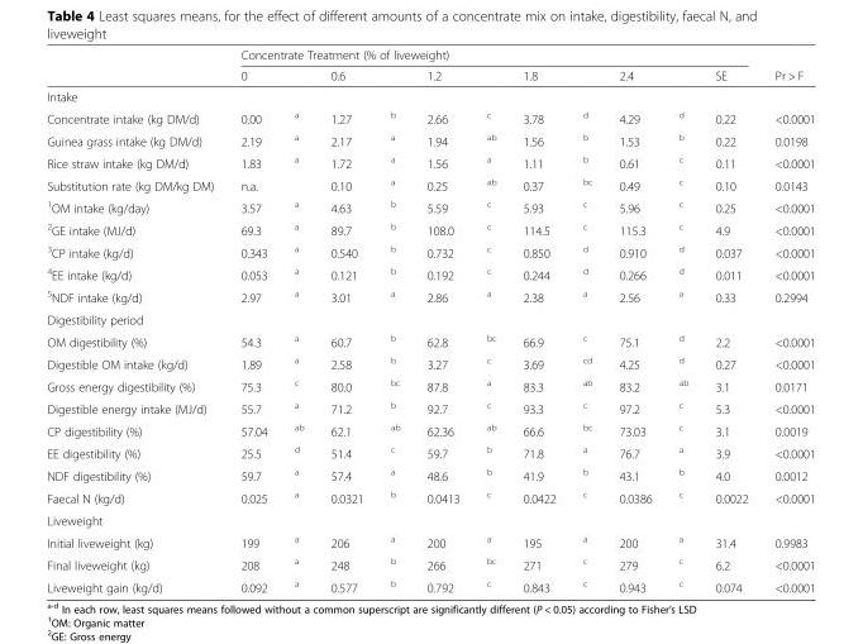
<table><thead><tr><td rowspan="2"></td><td colspan="11">Concentrate Treatment (% of liveweight)</td><td rowspan="2">Pr &gt; F</td></tr><tr><td>0</td><td></td><td>0.6</td><td></td><td>1.2</td><td></td><td>1.8</td><td></td><td>2.4</td><td></td><td>SE</td></tr></thead><tbody><tr><td colspan="13">Intake</td></tr><tr><td>Concentrate intake (kg DM/d)</td><td>0.00</td><td><sup>a</sup></td><td>1.27</td><td><sup>b</sup></td><td>2.66</td><td><sup>c</sup></td><td>3.78</td><td><sup>d</sup></td><td>4.29</td><td><sup>d</sup></td><td>0.22</td><td>&lt;0.0001</td></tr><tr><td>Guinea grass intake (kg DM/d)</td><td>2.19</td><td><sup>a</sup></td><td>2.17</td><td><sup>a</sup></td><td>1.94</td><td><sup>ab</sup></td><td>1.56</td><td><sup>b</sup></td><td>1.53</td><td><sup>b</sup></td><td>0.22</td><td>0.0198</td></tr><tr><td>Rice straw intake (kg DM/d)</td><td>1.83</td><td><sup>a</sup></td><td>1.72</td><td><sup>a</sup></td><td>1.56</td><td><sup>a</sup></td><td>1.11</td><td><sup>b</sup></td><td>0.61</td><td><sup>c</sup></td><td>0.11</td><td>&lt;0.0001</td></tr><tr><td>Substitution rate (kg DM/kg DM)</td><td>n.a.</td><td></td><td>0.10</td><td><sup>a</sup></td><td>0.25</td><td><sup>ab</sup></td><td>0.37</td><td><sup>bc</sup></td><td>0.49</td><td><sup>c</sup></td><td>0.10</td><td>0.0143</td></tr><tr><td><sup>1</sup>OM intake (kg/day)</td><td>3.57</td><td><sup>a</sup></td><td>4.63</td><td><sup>b</sup></td><td>5.59</td><td><sup>c</sup></td><td>5.93</td><td><sup>c</sup></td><td>5.96</td><td><sup>c</sup></td><td>0.25</td><td>&lt;0.0001</td></tr><tr><td><sup>2</sup>GE intake (MJ/d)</td><td>69.3</td><td><sup>a</sup></td><td>89.7</td><td><sup>b</sup></td><td>108.0</td><td><sup>c</sup></td><td>114.5</td><td><sup>c</sup></td><td>115.3</td><td><sup>c</sup></td><td>4.9</td><td>&lt;0.0001</td></tr><tr><td><sup>3</sup>CP intake (kg/d)</td><td>0.343</td><td><sup>a</sup></td><td>0.540</td><td><sup>b</sup></td><td>0.732</td><td><sup>c</sup></td><td>0.850</td><td><sup>d</sup></td><td>0.910</td><td><sup>d</sup></td><td>0.037</td><td>&lt;0.0001</td></tr><tr><td><sup>4</sup>EE intake (kg/d)</td><td>0.053</td><td><sup>a</sup></td><td>0.121</td><td><sup>b</sup></td><td>0.192</td><td><sup>c</sup></td><td>0.244</td><td><sup>d</sup></td><td>0.266</td><td><sup>d</sup></td><td>0.011</td><td>&lt;0.0001</td></tr><tr><td><sup>5</sup>NDF intake (kg/d)</td><td>2.97</td><td><sup>a</sup></td><td>3.01</td><td><sup>a</sup></td><td>2.86</td><td><sup>a</sup></td><td>2.38</td><td><sup>a</sup></td><td>2.56</td><td><sup>a</sup></td><td>0.33</td><td>0.2994</td></tr><tr><td colspan="13">Digestibility period</td></tr><tr><td>OM digestibility (%)</td><td>54.3</td><td><sup>a</sup></td><td>60.7</td><td><sup>b</sup></td><td>62.8</td><td><sup>bc</sup></td><td>66.9</td><td><sup>c</sup></td><td>75.1</td><td><sup>d</sup></td><td>2.2</td><td>&lt;0.0001</td></tr><tr><td>Digestible OM intake (kg/d)</td><td>1.89</td><td><sup>a</sup></td><td>2.58</td><td><sup>b</sup></td><td>3.27</td><td><sup>c</sup></td><td>3.69</td><td><sup>cd</sup></td><td>4.25</td><td><sup>d</sup></td><td>0.27</td><td>&lt;0.0001</td></tr><tr><td>Gross energy digestibility (%)</td><td>75.3</td><td><sup>c</sup></td><td>80.0</td><td><sup>bc</sup></td><td>87.8</td><td><sup>a</sup></td><td>83.3</td><td><sup>ab</sup></td><td>83.2</td><td><sup>ab</sup></td><td>3.1</td><td>0.0171</td></tr><tr><td>Digestible energy intake (MJ/d)</td><td>55.7</td><td><sup>a</sup></td><td>71.2</td><td><sup>b</sup></td><td>92.7</td><td><sup>c</sup></td><td>93.3</td><td><sup>c</sup></td><td>97.2</td><td><sup>c</sup></td><td>5.3</td><td>&lt;0.0001</td></tr><tr><td>CP digestibility (%)</td><td>57.04</td><td><sup>ab</sup></td><td>62.1</td><td><sup>ab</sup></td><td>62.36</td><td><sup>ab</sup></td><td>66.6</td><td><sup>bc</sup></td><td>73.03</td><td><sup>c</sup></td><td>3.1</td><td>0.0019</td></tr><tr><td>EE digestibility (%)</td><td>25.5</td><td><sup>d</sup></td><td>51.4</td><td><sup>c</sup></td><td>59.7</td><td><sup>b</sup></td><td>71.8</td><td><sup>a</sup></td><td>76.7</td><td><sup>a</sup></td><td>3.9</td><td>&lt;0.0001</td></tr><tr><td>NDF digestibility (%)</td><td>59.7</td><td><sup>a</sup></td><td>57.4</td><td><sup>a</sup></td><td>48.6</td><td><sup>b</sup></td><td>41.9</td><td><sup>b</sup></td><td>43.1</td><td><sup>b</sup></td><td>4.0</td><td>0.0012</td></tr><tr><td>Faecal N (kg/d)</td><td>0.025</td><td><sup>a</sup></td><td>0.0321</td><td><sup>b</sup></td><td>0.0413</td><td><sup>c</sup></td><td>0.0422</td><td><sup>c</sup></td><td>0.0386</td><td><sup>c</sup></td><td>0.0022</td><td>&lt;0.0001</td></tr><tr><td colspan="13">Liveweight</td></tr><tr><td>Initial liveweight (kg)</td><td>199</td><td><sup>a</sup></td><td>206</td><td><sup>a</sup></td><td>200</td><td><sup>a</sup></td><td>195</td><td><sup>a</sup></td><td>200</td><td><sup>a</sup></td><td>31.4</td><td>0.9983</td></tr><tr><td>Final liveweight (kg)</td><td>208</td><td><sup>a</sup></td><td>248</td><td><sup>b</sup></td><td>266</td><td><sup>bc</sup></td><td>271</td><td><sup>c</sup></td><td>279</td><td><sup>c</sup></td><td>6.2</td><td>&lt;0.0001</td></tr><tr><td>Liveweight gain (kg/d)</td><td>0.092</td><td><sup>a</sup></td><td>0.577</td><td><sup>b</sup></td><td>0.792</td><td><sup>c</sup></td><td>0.843</td><td><sup>c</sup></td><td>0.943</td><td><sup>c</sup></td><td>0.074</td><td>&lt;0.0001</td></tr></tbody></table>